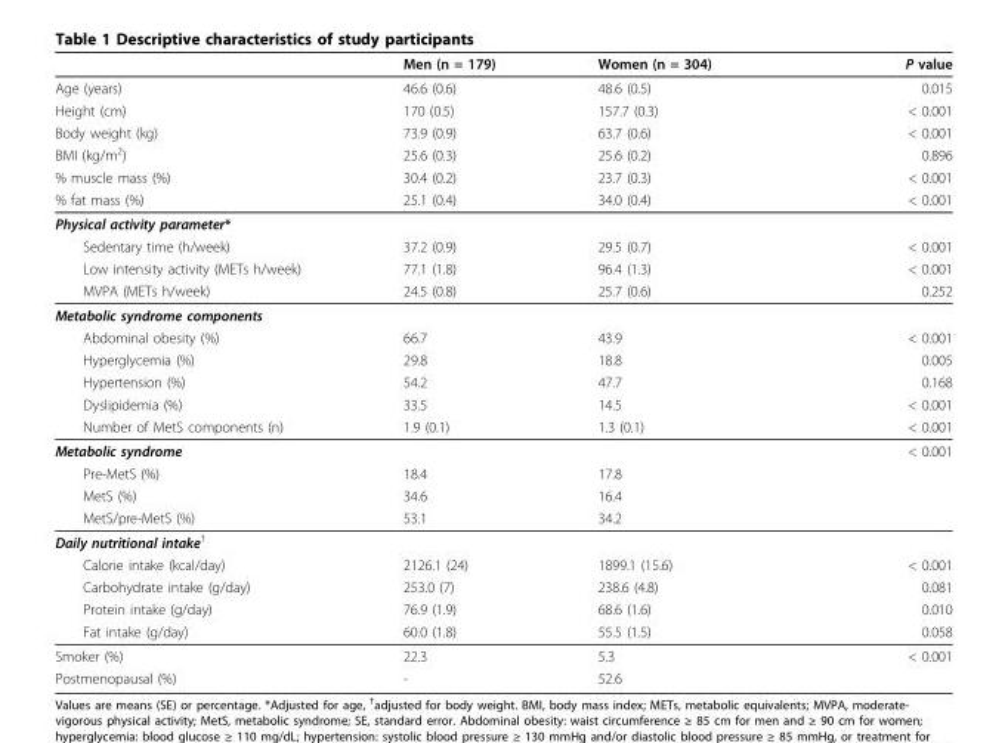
<table><thead><tr><td></td><td>Men (n = 179)</td><td>Women (n = 304)</td><td>P value</td></tr></thead><tbody><tr><td>Age (years)</td><td>46.6 (0.6)</td><td>48.6 (0.5)</td><td>0.015</td></tr><tr><td>Height (cm)</td><td>170 (0.5)</td><td>157.7 (0.3)</td><td>&lt; 0.001</td></tr><tr><td>Body weight (kg)</td><td>73.9 (0.9)</td><td>63.7 (0.6)</td><td>&lt; 0.001</td></tr><tr><td>BMI (kg/m<sup>2</sup>)</td><td>25.6 (0.3)</td><td>25.6 (0.2)</td><td>0.896</td></tr><tr><td>% muscle mass (%)</td><td>30.4 (0.2)</td><td>23.7 (0.3)</td><td>&lt; 0.001</td></tr><tr><td>% fat mass (%)</td><td>25.1 (0.4)</td><td>34.0 (0.4)</td><td>&lt; 0.001</td></tr><tr><td colspan="4">Physical activity parameter*</td></tr><tr><td>Sedentary time (h/week)</td><td>37.2 (0.9)</td><td>29.5 (0.7)</td><td>&lt; 0.001</td></tr><tr><td>Low intensity activity (METs h/week)</td><td>77.1 (1.8)</td><td>96.4 (1.3)</td><td>&lt; 0.001</td></tr><tr><td>MVPA (METs h/week)</td><td>24.5 (0.8)</td><td>25.7 (0.6)</td><td>0.252</td></tr><tr><td colspan="4">Metabolic syndrome components</td></tr><tr><td>Abdominal obesity (%)</td><td>66.7</td><td>43.9</td><td>&lt; 0.001</td></tr><tr><td>Hyperglycemia (%)</td><td>29.8</td><td>18.8</td><td>0.005</td></tr><tr><td>Hypertension (%)</td><td>54.2</td><td>47.7</td><td>0.168</td></tr><tr><td>Dyslipidemia (%)</td><td>33.5</td><td>14.5</td><td>&lt; 0.001</td></tr><tr><td>Number of MetS components (n)</td><td>1.9 (0.1)</td><td>1.3 (0.1)</td><td>&lt; 0.001</td></tr><tr><td>Metabolic syndrome</td><td></td><td></td><td>&lt; 0.001</td></tr><tr><td>Pre-MetS (%)</td><td>18.4</td><td>17.8</td><td></td></tr><tr><td>MetS (%)</td><td>34.6</td><td>16.4</td><td></td></tr><tr><td>MetS/pre-MetS (%)</td><td>53.1</td><td>34.2</td><td></td></tr><tr><td colspan="4">Daily nutritional intake<sup>†</sup></td></tr><tr><td>Calorie intake (kcal/day)</td><td>2126.1 (24)</td><td>1899.1 (15.6)</td><td>&lt; 0.001</td></tr><tr><td>Carbohydrate intake (g/day)</td><td>253.0 (7)</td><td>238.6 (4.8)</td><td>0.081</td></tr><tr><td>Protein intake (g/day)</td><td>76.9 (1.9)</td><td>68.6 (1.6)</td><td>0.010</td></tr><tr><td>Fat intake (g/day)</td><td>60.0 (1.8)</td><td>55.5 (1.5)</td><td>0.058</td></tr><tr><td>Smoker (%)</td><td>22.3</td><td>5.3</td><td>&lt; 0.001</td></tr><tr><td>Postmenopausal (%)</td><td>-</td><td>52.6</td><td></td></tr></tbody></table>